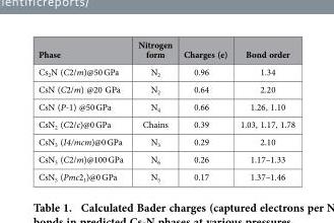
<table><thead><tr><td>Phase</td><td>Nitrogen form</td><td>Charges (e)</td><td>Bond order</td></tr></thead><tbody><tr><td>Cs<sub>2</sub>N (C2/m)@50 GPa</td><td>N<sub>2</sub></td><td>0.96</td><td>1.34</td></tr><tr><td>CsN (C2/m) @20 GPa</td><td>N<sub>2</sub></td><td>0.64</td><td>2.20</td></tr><tr><td>CsN (P-1) @50 GPa</td><td>N<sub>4</sub></td><td>0.66</td><td>1.26, 1.10</td></tr><tr><td>CsN<sub>2</sub> (C2/c)@0 GPa</td><td>Chains</td><td>0.39</td><td>1.03, 1.17, 1.78</td></tr><tr><td>CsN<sub>3</sub> (I4/mcm)@0 GPa</td><td>N<sub>3</sub></td><td>0.29</td><td>2.10</td></tr><tr><td>CsN<sub>3</sub> (C2/m)@100 GPa</td><td>N<sub>6</sub></td><td>0.26</td><td>1.17–1.33</td></tr><tr><td>CsN<sub>5</sub> (Pmc2<sub>1</sub>)@0 GPa</td><td>N<sub>5</sub></td><td>0.17</td><td>1.37–1.46</td></tr></tbody></table>